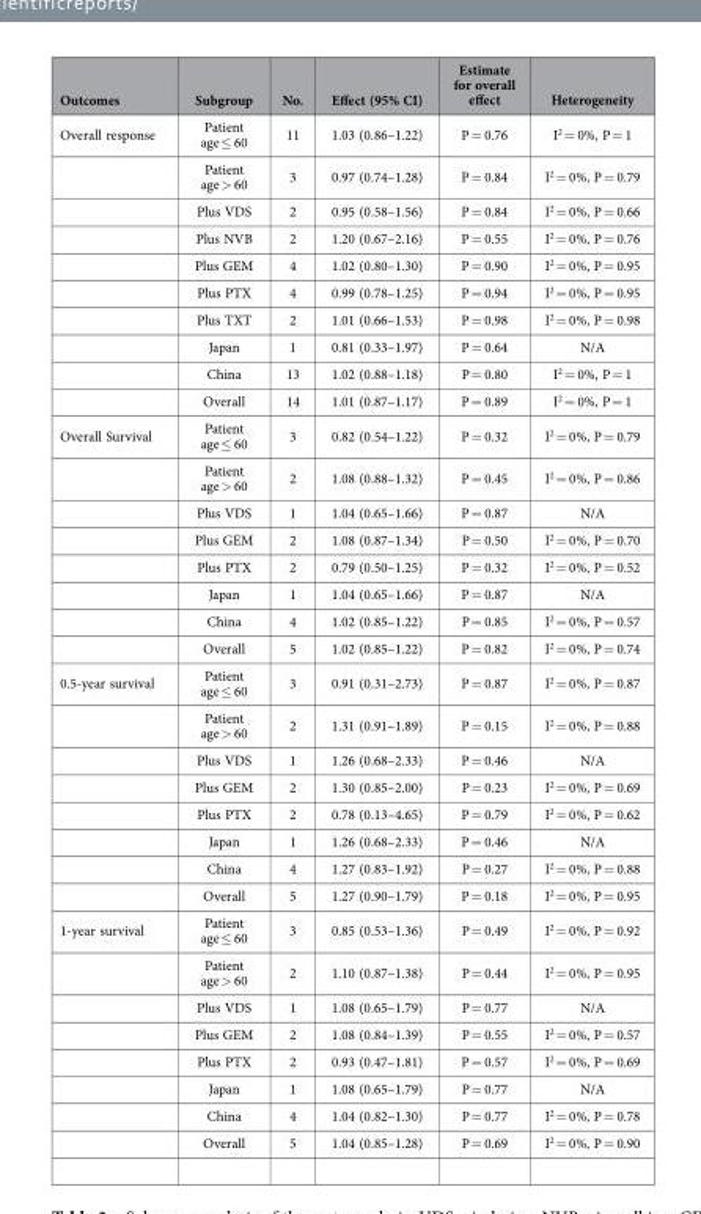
<table><thead><tr><td>Outcomes</td><td>Subgroup</td><td>No.</td><td>Effect (95% CI)</td><td>Estimate for overall effect</td><td>Heterogeneity</td></tr></thead><tbody><tr><td rowspan="10">Overall response</td><td>Patient age ≤ 60</td><td>11</td><td>1.03 (0.86–1.22)</td><td>P = 0.76</td><td>I<sup>2</sup> = 0%, P = 1</td></tr><tr><td>Patient age &gt; 60</td><td>3</td><td>0.97 (0.74–1.28)</td><td>P = 0.84</td><td>I<sup>2</sup> = 0%, P = 0.79</td></tr><tr><td>Plus VDS</td><td>2</td><td>0.95 (0.58–1.56)</td><td>P = 0.84</td><td>I<sup>2</sup> = 0%, P = 0.66</td></tr><tr><td>Plus NVB</td><td>2</td><td>1.20 (0.67–2.16)</td><td>P = 0.55</td><td>I<sup>2</sup> = 0%, P = 0.76</td></tr><tr><td>Plus GEM</td><td>4</td><td>1.02 (0.80–1.30)</td><td>P = 0.90</td><td>I<sup>2</sup> = 0%, P = 0.95</td></tr><tr><td>Plus PTX</td><td>4</td><td>0.99 (0.78–1.25)</td><td>P = 0.94</td><td>I<sup>2</sup> = 0%, P = 0.95</td></tr><tr><td>Plus TXT</td><td>2</td><td>1.01 (0.66–1.53)</td><td>P = 0.98</td><td>I<sup>2</sup> = 0%, P = 0.98</td></tr><tr><td>Japan</td><td>1</td><td>0.81 (0.33–1.97)</td><td>P = 0.64</td><td>N/A</td></tr><tr><td>China</td><td>13</td><td>1.02 (0.88–1.18)</td><td>P = 0.80</td><td>I<sup>2</sup> = 0%, P = 1</td></tr><tr><td>Overall</td><td>14</td><td>1.01 (0.87–1.17)</td><td>P = 0.89</td><td>I<sup>2</sup> = 0%, P = 1</td></tr><tr><td rowspan="8">Overall Survival</td><td>Patient age ≤ 60</td><td>3</td><td>0.82 (0.54–1.22)</td><td>P = 0.32</td><td>I<sup>2</sup> = 0%, P = 0.79</td></tr><tr><td>Patient age &gt; 60</td><td>2</td><td>1.08 (0.88–1.32)</td><td>P = 0.45</td><td>I<sup>2</sup> = 0%, P = 0.86</td></tr><tr><td>Plus VDS</td><td>1</td><td>1.04 (0.65–1.66)</td><td>P = 0.87</td><td>N/A</td></tr><tr><td>Plus GEM</td><td>2</td><td>1.08 (0.87–1.34)</td><td>P = 0.50</td><td>I<sup>2</sup> = 0%, P = 0.70</td></tr><tr><td>Plus PTX</td><td>2</td><td>0.79 (0.50–1.25)</td><td>P = 0.32</td><td>I<sup>2</sup> = 0%, P = 0.52</td></tr><tr><td>Japan</td><td>1</td><td>1.04 (0.65–1.66)</td><td>P = 0.87</td><td>N/A</td></tr><tr><td>China</td><td>4</td><td>1.02 (0.85–1.22)</td><td>P = 0.85</td><td>I<sup>2</sup> = 0%, P = 0.57</td></tr><tr><td>Overall</td><td>5</td><td>1.02 (0.85–1.22)</td><td>P = 0.82</td><td>I<sup>2</sup> = 0%, P = 0.74</td></tr><tr><td rowspan="8">0.5-year survival</td><td>Patient age ≤ 60</td><td>3</td><td>0.91 (0.31–2.73)</td><td>P = 0.87</td><td>I<sup>2</sup> = 0%, P = 0.87</td></tr><tr><td>Patient age &gt; 60</td><td>2</td><td>1.31 (0.91–1.89)</td><td>P = 0.15</td><td>I<sup>2</sup> = 0%, P = 0.88</td></tr><tr><td>Plus VDS</td><td>1</td><td>1.26 (0.68–2.33)</td><td>P = 0.46</td><td>N/A</td></tr><tr><td>Plus GEM</td><td>2</td><td>1.30 (0.85–2.00)</td><td>P = 0.23</td><td>I<sup>2</sup> = 0%, P = 0.69</td></tr><tr><td>Plus PTX</td><td>2</td><td>0.78 (0.13–4.65)</td><td>P = 0.79</td><td>I<sup>2</sup> = 0%, P = 0.62</td></tr><tr><td>Japan</td><td>1</td><td>1.26 (0.68–2.33)</td><td>P = 0.46</td><td>N/A</td></tr><tr><td>China</td><td>4</td><td>1.27 (0.83–1.92)</td><td>P = 0.27</td><td>I<sup>2</sup> = 0%, P = 0.88</td></tr><tr><td>Overall</td><td>5</td><td>1.27 (0.90–1.79)</td><td>P = 0.18</td><td>I<sup>2</sup> = 0%, P = 0.95</td></tr><tr><td rowspan="8">1-year survival</td><td>Patient age ≤ 60</td><td>3</td><td>0.85 (0.53–1.36)</td><td>P = 0.49</td><td>I<sup>2</sup> = 0%, P = 0.92</td></tr><tr><td>Patient age &gt; 60</td><td>2</td><td>1.10 (0.87–1.38)</td><td>P = 0.44</td><td>I<sup>2</sup> = 0%, P = 0.95</td></tr><tr><td>Plus VDS</td><td>1</td><td>1.08 (0.65–1.79)</td><td>P = 0.77</td><td>N/A</td></tr><tr><td>Plus GEM</td><td>2</td><td>1.08 (0.84–1.39)</td><td>P = 0.55</td><td>I<sup>2</sup> = 0%, P = 0.57</td></tr><tr><td>Plus PTX</td><td>2</td><td>0.93 (0.47–1.81)</td><td>P = 0.57</td><td>I<sup>2</sup> = 0%, P = 0.69</td></tr><tr><td>Japan</td><td>1</td><td>1.08 (0.65–1.79)</td><td>P = 0.77</td><td>N/A</td></tr><tr><td>China</td><td>4</td><td>1.04 (0.82–1.30)</td><td>P = 0.77</td><td>I<sup>2</sup> = 0%, P = 0.78</td></tr><tr><td>Overall</td><td>5</td><td>1.04 (0.85–1.28)</td><td>P = 0.69</td><td>I<sup>2</sup> = 0%, P = 0.90</td></tr></tbody></table>